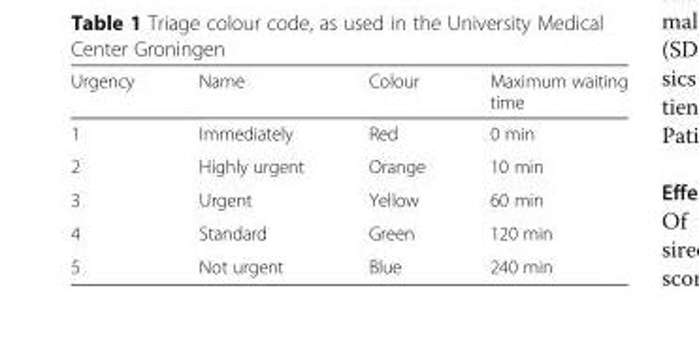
<table><thead><tr><td>Urgency</td><td>Name</td><td>Colour</td><td>Maximum waiting time</td></tr></thead><tbody><tr><td>1</td><td>Immediately</td><td>Red</td><td>0 min</td></tr><tr><td>2</td><td>Highly urgent</td><td>Orange</td><td>10 min</td></tr><tr><td>3</td><td>Urgent</td><td>Yellow</td><td>60 min</td></tr><tr><td>4</td><td>Standard</td><td>Green</td><td>120 min</td></tr><tr><td>5</td><td>Not urgent</td><td>Blue</td><td>240 min</td></tr></tbody></table>